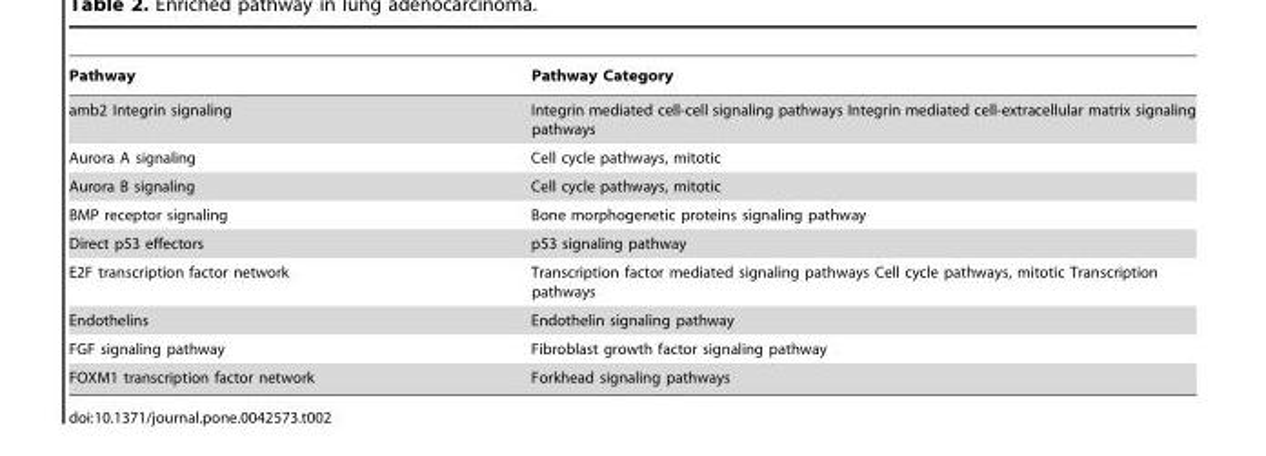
<table><thead><tr><td>Pathway</td><td>Pathway Category</td></tr></thead><tbody><tr><td>amb2 Integrin signaling</td><td>Integrin mediated cell-cell signaling pathways Integrin mediated cell-extracellular matrix signaling pathways</td></tr><tr><td>Aurora A signaling</td><td>Cell cycle pathways, mitotic</td></tr><tr><td>Aurora B signaling</td><td>Cell cycle pathways, mitotic</td></tr><tr><td>BMP receptor signaling</td><td>Bone morphogenetic proteins signaling pathway</td></tr><tr><td>Direct p53 effectors</td><td>p53 signaling pathway</td></tr><tr><td>E2F transcription factor network</td><td>Transcription factor mediated signaling pathways Cell cycle pathways, mitotic Transcription pathways</td></tr><tr><td>Endothelins</td><td>Endothelin signaling pathway</td></tr><tr><td>FGF signaling pathway</td><td>Fibroblast growth factor signaling pathway</td></tr><tr><td>FOXM1 transcription factor network</td><td>Forkhead signaling pathways</td></tr></tbody></table>